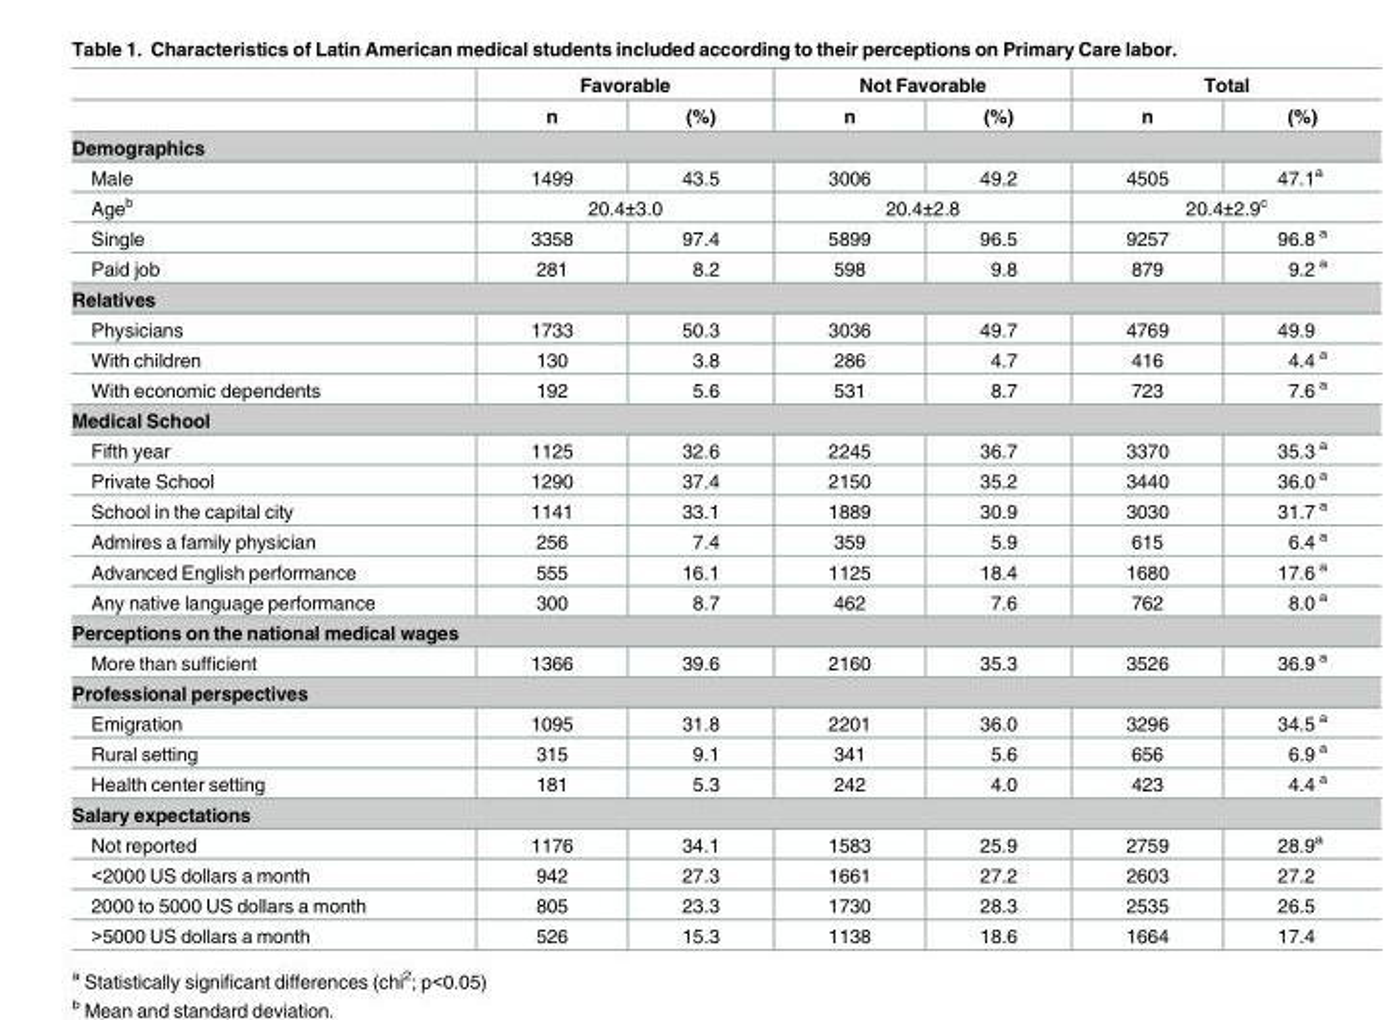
<table><thead><tr><td rowspan="2"></td><td colspan="2">Favorable</td><td colspan="2">Not Favorable</td><td colspan="2">Total</td></tr><tr><td>n</td><td>(%)</td><td>n</td><td>(%)</td><td>n</td><td>(%)</td></tr></thead><tbody><tr><td colspan="7">Demographics</td></tr><tr><td>Male</td><td>1499</td><td>43.5</td><td>3006</td><td>49.2</td><td>4505</td><td>47.1<sup>a</sup></td></tr><tr><td>Age<sup>b</sup></td><td colspan="2">20.4±3.0</td><td colspan="2">20.4±2.8</td><td colspan="2">20.4±2.9<sup>c</sup></td></tr><tr><td>Single</td><td>3358</td><td>97.4</td><td>5899</td><td>96.5</td><td>9257</td><td>96.8 <sup>a</sup></td></tr><tr><td>Paid job</td><td>281</td><td>8.2</td><td>598</td><td>9.8</td><td>879</td><td>9.2 <sup>a</sup></td></tr><tr><td colspan="7">Relatives</td></tr><tr><td>Physicians</td><td>1733</td><td>50.3</td><td>3036</td><td>49.7</td><td>4769</td><td>49.9</td></tr><tr><td>With children</td><td>130</td><td>3.8</td><td>286</td><td>4.7</td><td>416</td><td>4.4 <sup>a</sup></td></tr><tr><td>With economic dependents</td><td>192</td><td>5.6</td><td>531</td><td>8.7</td><td>723</td><td>7.6 <sup>a</sup></td></tr><tr><td colspan="7">Medical School</td></tr><tr><td>Fifth year</td><td>1125</td><td>32.6</td><td>2245</td><td>36.7</td><td>3370</td><td>35.3 <sup>a</sup></td></tr><tr><td>Private School</td><td>1290</td><td>37.4</td><td>2150</td><td>35.2</td><td>3440</td><td>36.0 <sup>a</sup></td></tr><tr><td>School in the capital city</td><td>1141</td><td>33.1</td><td>1889</td><td>30.9</td><td>3030</td><td>31.7 <sup>a</sup></td></tr><tr><td>Admires a family physician</td><td>256</td><td>7.4</td><td>359</td><td>5.9</td><td>615</td><td>6.4 <sup>a</sup></td></tr><tr><td>Advanced English performance</td><td>555</td><td>16.1</td><td>1125</td><td>18.4</td><td>1680</td><td>17.6 <sup>a</sup></td></tr><tr><td>Any native language performance</td><td>300</td><td>8.7</td><td>462</td><td>7.6</td><td>762</td><td>8.0 <sup>a</sup></td></tr><tr><td colspan="7">Perceptions on the national medical wages</td></tr><tr><td>More than sufficient</td><td>1366</td><td>39.6</td><td>2160</td><td>35.3</td><td>3526</td><td>36.9 <sup>a</sup></td></tr><tr><td colspan="7">Professional perspectives</td></tr><tr><td>Emigration</td><td>1095</td><td>31.8</td><td>2201</td><td>36.0</td><td>3296</td><td>34.5 <sup>a</sup></td></tr><tr><td>Rural setting</td><td>315</td><td>9.1</td><td>341</td><td>5.6</td><td>656</td><td>6.9 <sup>a</sup></td></tr><tr><td>Health center setting</td><td>181</td><td>5.3</td><td>242</td><td>4.0</td><td>423</td><td>4.4 <sup>a</sup></td></tr><tr><td colspan="7">Salary expectations</td></tr><tr><td>Not reported</td><td>1176</td><td>34.1</td><td>1583</td><td>25.9</td><td>2759</td><td>28.9<sup>a</sup></td></tr><tr><td>&lt;2000 US dollars a month</td><td>942</td><td>27.3</td><td>1661</td><td>27.2</td><td>2603</td><td>27.2</td></tr><tr><td>2000 to 5000 US dollars a month</td><td>805</td><td>23.3</td><td>1730</td><td>28.3</td><td>2535</td><td>26.5</td></tr><tr><td>&gt;5000 US dollars a month</td><td>526</td><td>15.3</td><td>1138</td><td>18.6</td><td>1664</td><td>17.4</td></tr></tbody></table>